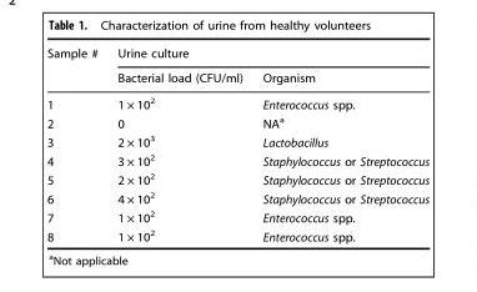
<table><thead><tr><td rowspan="2">Sample #</td><td colspan="2">Urine culture</td></tr><tr><td>Bacterial load (CFU/ml)</td><td>Organism</td></tr></thead><tbody><tr><td>1</td><td>1 × 10<sup>2</sup></td><td>Enterococcus spp.</td></tr><tr><td>2</td><td>0</td><td>NA<sup>a</sup></td></tr><tr><td>3</td><td>2 × 10<sup>3</sup></td><td>Lactobacillus</td></tr><tr><td>4</td><td>3 × 10<sup>2</sup></td><td>Staphylococcus or Streptococcus</td></tr><tr><td>5</td><td>2 × 10<sup>2</sup></td><td>Staphylococcus or Streptococcus</td></tr><tr><td>6</td><td>4 × 10<sup>2</sup></td><td>Staphylococcus or Streptococcus</td></tr><tr><td>7</td><td>1 × 10<sup>2</sup></td><td>Enterococcus spp.</td></tr><tr><td>8</td><td>1 × 10<sup>2</sup></td><td>Enterococcus spp.</td></tr></tbody></table>